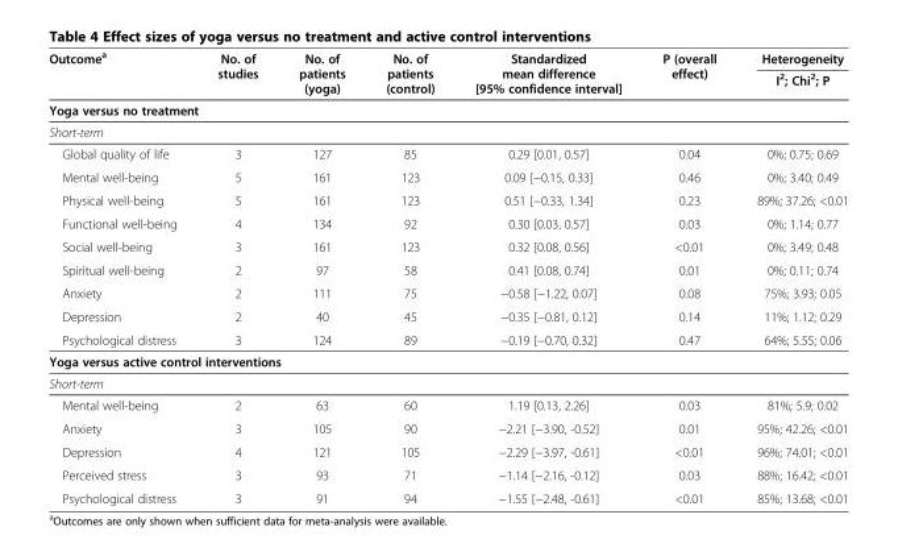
<table><thead><tr><td rowspan="2">Outcome<sup>a</sup></td><td rowspan="2">No. of studies</td><td rowspan="2">No. of patients (yoga)</td><td rowspan="2">No. of patients (control)</td><td rowspan="2">Standardized mean difference [95% confidence interval]</td><td rowspan="2">P (overall effect)</td><td rowspan="2">Heterogeneity I<sup>2</sup>; Chi<sup>2</sup>; P</td></tr><tr></tr></thead><tbody><tr><td colspan="7">Yoga versus no treatment</td></tr><tr><td colspan="7">Short-term</td></tr><tr><td>Global quality of life</td><td>3</td><td>127</td><td>85</td><td>0.29 [0.01, 0.57]</td><td>0.04</td><td>0%; 0.75; 0.69</td></tr><tr><td>Mental well-being</td><td>5</td><td>161</td><td>123</td><td>0.09 [−0.15, 0.33]</td><td>0.46</td><td>0%; 3.40; 0.49</td></tr><tr><td>Physical well-being</td><td>5</td><td>161</td><td>123</td><td>0.51 [−0.33, 1.34]</td><td>0.23</td><td>89%; 37.26; &lt;0.01</td></tr><tr><td>Functional well-being</td><td>4</td><td>134</td><td>92</td><td>0.30 [0.03, 0.57]</td><td>0.03</td><td>0%; 1.14; 0.77</td></tr><tr><td>Social well-being</td><td>3</td><td>161</td><td>123</td><td>0.32 [0.08, 0.56]</td><td>&lt;0.01</td><td>0%; 3.49; 0.48</td></tr><tr><td>Spiritual well-being</td><td>2</td><td>97</td><td>58</td><td>0.41 [0.08, 0.74]</td><td>0.01</td><td>0%; 0.11; 0.74</td></tr><tr><td>Anxiety</td><td>2</td><td>111</td><td>75</td><td>−0.58 [−1.22, 0.07]</td><td>0.08</td><td>75%; 3.93; 0.05</td></tr><tr><td>Depression</td><td>2</td><td>40</td><td>45</td><td>−0.35 [−0.81, 0.12]</td><td>0.14</td><td>11%; 1.12; 0.29</td></tr><tr><td>Psychological distress</td><td>3</td><td>124</td><td>89</td><td>−0.19 [−0.70, 0.32]</td><td>0.47</td><td>64%; 5.55; 0.06</td></tr><tr><td colspan="7">Yoga versus active control interventions</td></tr><tr><td colspan="7">Short-term</td></tr><tr><td>Mental well-being</td><td>2</td><td>63</td><td>60</td><td>1.19 [0.13, 2.26]</td><td>0.03</td><td>81%; 5.9; 0.02</td></tr><tr><td>Anxiety</td><td>3</td><td>105</td><td>90</td><td>−2.21 [−3.90, -0.52]</td><td>0.01</td><td>95%; 42.26; &lt;0.01</td></tr><tr><td>Depression</td><td>4</td><td>121</td><td>105</td><td>−2.29 [−3.97, -0.61]</td><td>&lt;0.01</td><td>96%; 74.01; &lt;0.01</td></tr><tr><td>Perceived stress</td><td>3</td><td>93</td><td>71</td><td>−1.14 [−2.16, -0.12]</td><td>0.03</td><td>88%; 16.42; &lt;0.01</td></tr><tr><td>Psychological distress</td><td>3</td><td>91</td><td>94</td><td>−1.55 [−2.48, -0.61]</td><td>&lt;0.01</td><td>85%; 13.68; &lt;0.01</td></tr></tbody></table>